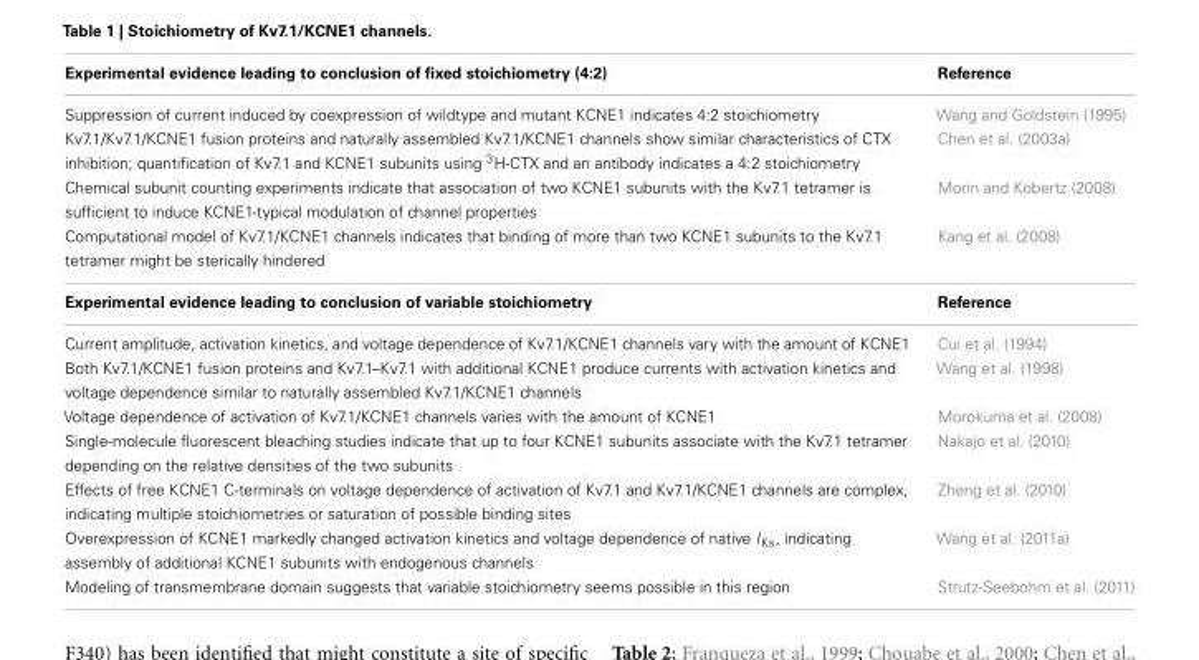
<table><thead><tr><td>Experimental evidence leading to conclusion of fixed stoichiometry (4:2)</td><td>Reference</td></tr></thead><tbody><tr><td>Suppression of current induced by coexpression of wildtype and mutant KCNE1 indicates 4:2 stoichiometry</td><td>Wang and Goldstein (1995)</td></tr><tr><td>Kv7.1/Kv7.1/KCNE1 fusion proteins and naturally assembled Kv7.1/KCNE1 channels show similar characteristics of CTX inhibition; quantification of Kv7.1 and KCNE1 subunits using <sup>3</sup>H-CTX and an antibody indicates a 4:2 stoichiometry</td><td>Chen et al. (2003a)</td></tr><tr><td>Chemical subunit counting experiments indicate that association of two KCNE1 subunits with the Kv7.1 tetramer is sufficient to induce KCNE1-typical modulation of channel properties</td><td>Morin and Kobertz (2008)</td></tr><tr><td>Computational model of Kv7.1/KCNE1 channels indicates that binding of more than two KCNE1 subunits to the Kv7.1 tetramer might be sterically hindered</td><td>Kang et al. (2008)</td></tr><tr><td>Experimental evidence leading to conclusion of variable stoichiometry</td><td>Reference</td></tr><tr><td>Current amplitude, activation kinetics, and voltage dependence of Kv7.1/KCNE1 channels vary with the amount of KCNE1</td><td>Cui et al. (1994)</td></tr><tr><td>Both Kv7.1/KCNE1 fusion proteins and Kv7.1–Kv7.1 with additional KCNE1 produce currents with activation kinetics and voltage dependence similar to naturally assembled Kv7.1/KCNE1 channels</td><td>Wang et al. (1998)</td></tr><tr><td>Voltage dependence of activation of Kv7.1/KCNE1 channels varies with the amount of KCNE1</td><td>Morokuma et al. (2008)</td></tr><tr><td>Single-molecule fluorescent bleaching studies indicate that up to four KCNE1 subunits associate with the Kv7.1 tetramer depending on the relative densities of the two subunits</td><td>Nakajo et al. (2010)</td></tr><tr><td>Effects of free KCNE1 C-terminals on voltage dependence of activation of Kv7.1 and Kv7.1/KCNE1 channels are complex, indicating multiple stoichiometries or saturation of possible binding sites</td><td>Zheng et al. (2010)</td></tr><tr><td>Overexpression of KCNE1 markedly changed activation kinetics and voltage dependence of native I<sub>Ks</sub>, indicating assembly of additional KCNE1 subunits with endogenous channels</td><td>Wang et al. (2011a)</td></tr><tr><td>Modeling of transmembrane domain suggests that variable stoichiometry seems possible in this region</td><td>Strutz-Seebohm et al. (2011)</td></tr></tbody></table>